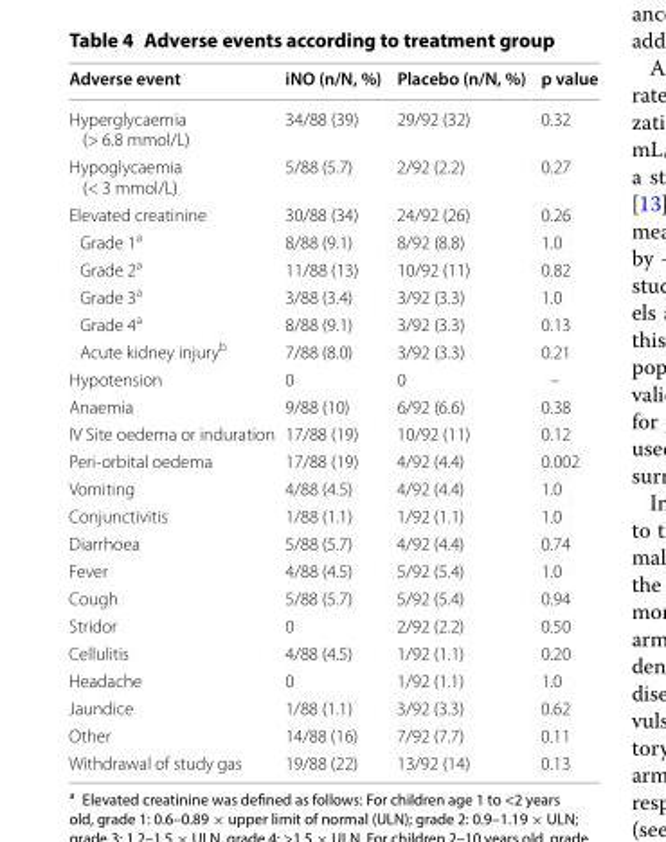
<table><thead><tr><td>Adverse event</td><td>iNO (n/N, %)</td><td>Placebo (n/N, %)</td><td>p value</td></tr></thead><tbody><tr><td>Hyperglycaemia (&gt; 6.8 mmol/L)</td><td>34/88 (39)</td><td>29/92 (32)</td><td>0.32</td></tr><tr><td>Hypoglycaemia (&lt; 3 mmol/L)</td><td>5/88 (5.7)</td><td>2/92 (2.2)</td><td>0.27</td></tr><tr><td>Elevated creatinine</td><td>30/88 (34)</td><td>24/92 (26)</td><td>0.26</td></tr><tr><td>Grade 1<sup>a</sup></td><td>8/88 (9.1)</td><td>8/92 (8.8)</td><td>1.0</td></tr><tr><td>Grade 2<sup>a</sup></td><td>11/88 (13)</td><td>10/92 (11)</td><td>0.82</td></tr><tr><td>Grade 3<sup>a</sup></td><td>3/88 (3.4)</td><td>3/92 (3.3)</td><td>1.0</td></tr><tr><td>Grade 4<sup>a</sup></td><td>8/88 (9.1)</td><td>3/92 (3.3)</td><td>0.13</td></tr><tr><td>Acute kidney injury<sup>b</sup></td><td>7/88 (8.0)</td><td>3/92 (3.3)</td><td>0.21</td></tr><tr><td>Hypotension</td><td>0</td><td>0</td><td>–</td></tr><tr><td>Anaemia</td><td>9/88 (10)</td><td>6/92 (6.6)</td><td>0.38</td></tr><tr><td>IV Site oedema or induration</td><td>17/88 (19)</td><td>10/92 (11)</td><td>0.12</td></tr><tr><td>Peri-orbital oedema</td><td>17/88 (19)</td><td>4/92 (4.4)</td><td>0.002</td></tr><tr><td>Vomiting</td><td>4/88 (4.5)</td><td>4/92 (4.4)</td><td>1.0</td></tr><tr><td>Conjunctivitis</td><td>1/88 (1.1)</td><td>1/92 (1.1)</td><td>1.0</td></tr><tr><td>Diarrhoea</td><td>5/88 (5.7)</td><td>4/92 (4.4)</td><td>0.74</td></tr><tr><td>Fever</td><td>4/88 (4.5)</td><td>5/92 (5.4)</td><td>1.0</td></tr><tr><td>Cough</td><td>5/88 (5.7)</td><td>5/92 (5.4)</td><td>0.94</td></tr><tr><td>Stridor</td><td>0</td><td>2/92 (2.2)</td><td>0.50</td></tr><tr><td>Cellulitis</td><td>4/88 (4.5)</td><td>1/92 (1.1)</td><td>0.20</td></tr><tr><td>Headache</td><td>0</td><td>1/92 (1.1)</td><td>1.0</td></tr><tr><td>Jaundice</td><td>1/88 (1.1)</td><td>3/92 (3.3)</td><td>0.62</td></tr><tr><td>Other</td><td>14/88 (16)</td><td>7/92 (7.7)</td><td>0.11</td></tr><tr><td>Withdrawal of study gas</td><td>19/88 (22)</td><td>13/92 (14)</td><td>0.13</td></tr></tbody></table>